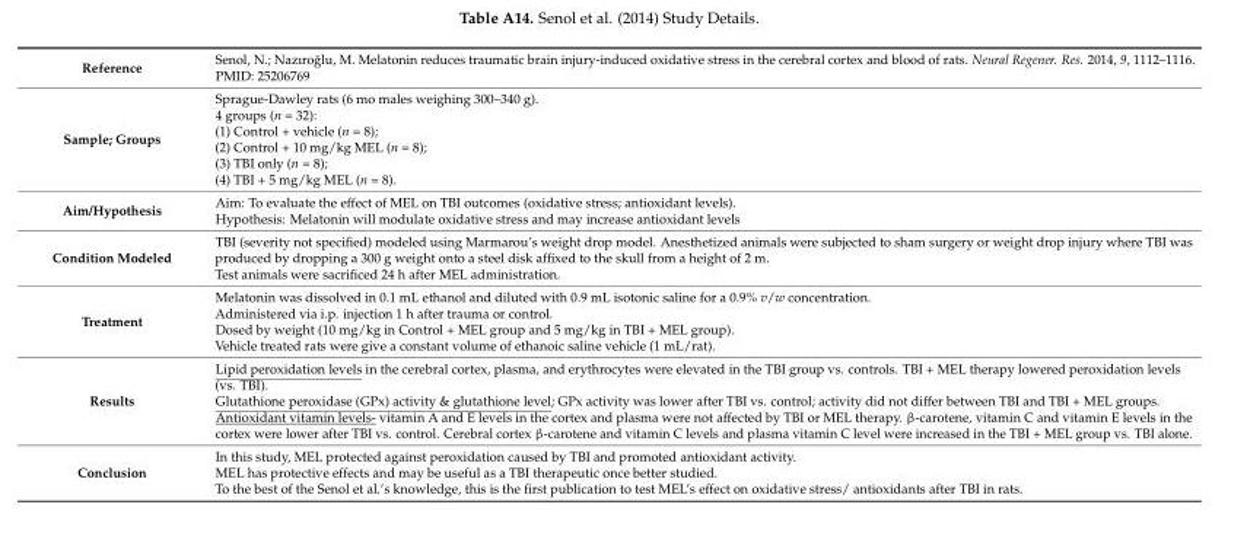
<table><tbody><tr><td>Reference</td><td>Senol, N.; Nazıro˘glu, M. Melatonin reduces traumatic brain injury-induced oxidative stress in the cerebral cortex and blood of rats. Neural Regener. Res. 2014, 9, 1112–1116. PMID: 25206769</td></tr><tr><td>Sample; Groups</td><td>Sprague-Dawley rats (6 mo males weighing 300–340 g). 4 groups (n = 32): (1) Control + vehicle (n = 8); (2) Control + 10 mg/kg MEL (n = 8); (3) TBI only (n = 8); (4) TBI + 5 mg/kg MEL (n = 8).</td></tr><tr><td>Aim/Hypothesis</td><td>Aim: To evaluate the effect of MEL on TBI outcomes (oxidative stress; antioxidant levels). Hypothesis: Melatonin will modulate oxidative stress and may increase antioxidant levels</td></tr><tr><td>Condition Modeled</td><td>TBI (severity not specified) modeled using Marmarou’s weight drop model. Anesthetized animals were subjected to sham surgery or weight drop injury where TBI was produced by dropping a 300 g weight onto a steel disk affixed to the skull from a height of 2 m. Test animals were sacrificed 24 h after MEL administration.</td></tr><tr><td>Treatment</td><td>Melatonin was dissolved in 0.1 mL ethanol and diluted with 0.9 mL isotonic saline for a 0.9% v/w concentration. Administered via i.p. injection 1 h after trauma or control. Dosed by weight (10 mg/kg in Control + MEL group and 5 mg/kg in TBI + MEL group). Vehicle treated rats were give a constant volume of ethanoic saline vehicle (1 mL/rat).</td></tr><tr><td>Results</td><td>Lipid peroxidation levels in the cerebral cortex, plasma, and erythrocytes were elevated in the TBI group vs. controls. TBI + MEL therapy lowered peroxidation levels (vs. TBI). Glutathione peroxidase (GPx) activity &amp; glutathione level; GPx activity was lower after TBI vs. control; activity did not differ between TBI and TBI + MEL groups. Antioxidant vitamin levels- vitamin A and E levels in the cortex and plasma were not affected by TBI or MEL therapy. β-carotene, vitamin C and vitamin E levels in the cortex were lower after TBI vs. control. Cerebral cortex β-carotene and vitamin C levels and plasma vitamin C level were increased in the TBI + MEL group vs. TBI alone.</td></tr><tr><td>Conclusion</td><td>In this study, MEL protected against peroxidation caused by TBI and promoted antioxidant activity. MEL has protective effects and may be useful as a TBI therapeutic once better studied. To the best of the Senol et al.’s knowledge, this is the first publication to test MEL’s effect on oxidative stress/ antioxidants after TBI in rats.</td></tr></tbody></table>